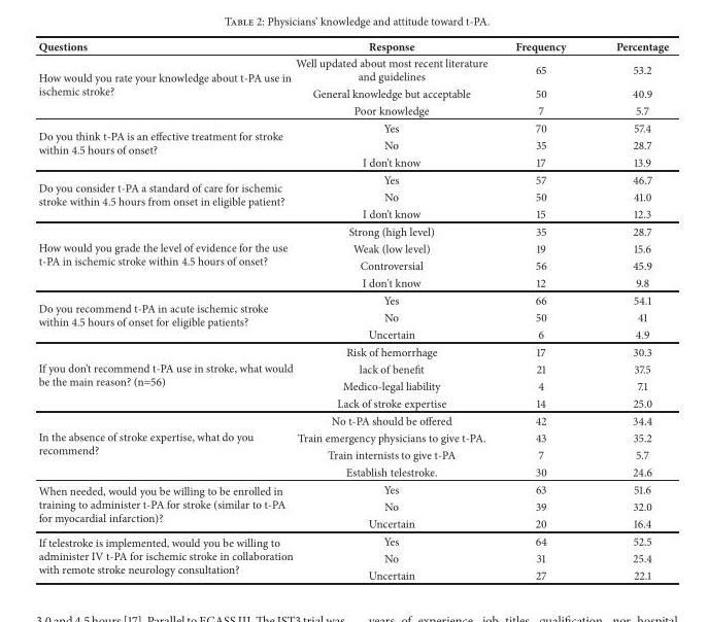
<table><thead><tr><td>Questions</td><td>Response</td><td>Frequency</td><td>Percentage</td></tr></thead><tbody><tr><td rowspan="3">How would you rate your knowledge about t-PA use in ischemic stroke?</td><td>Well updated about most recent literature and guidelines</td><td>65</td><td>53.2</td></tr><tr><td>General knowledge but acceptable</td><td>50</td><td>40.9</td></tr><tr><td>Poor knowledge</td><td>7</td><td>5.7</td></tr><tr><td rowspan="3">Do you think t-PA is an effective treatment for stroke within 4.5 hours of onset?</td><td>Yes</td><td>70</td><td>57.4</td></tr><tr><td>No</td><td>35</td><td>28.7</td></tr><tr><td>I don’t know</td><td>17</td><td>13.9</td></tr><tr><td rowspan="3">Do you consider t-PA a standard of care for ischemic stroke within 4.5 hours from onset in eligible patient?</td><td>Yes</td><td>57</td><td>46.7</td></tr><tr><td>No</td><td>50</td><td>41.0</td></tr><tr><td>I don’t know</td><td>15</td><td>12.3</td></tr><tr><td rowspan="4">How would you grade the level of evidence for the use t-PA in ischemic stroke within 4.5 hours of onset?</td><td>Strong (high level)</td><td>35</td><td>28.7</td></tr><tr><td>Weak (low level)</td><td>19</td><td>15.6</td></tr><tr><td>Controversial</td><td>56</td><td>45.9</td></tr><tr><td>I don&#x27;t know</td><td>12</td><td>9.8</td></tr><tr><td rowspan="3">Do you recommend t-PA in acute ischemic stroke within 4.5 hours of onset for eligible patients?</td><td>Yes</td><td>66</td><td>54.1</td></tr><tr><td>No</td><td>50</td><td>41</td></tr><tr><td>Uncertain</td><td>6</td><td>4.9</td></tr><tr><td rowspan="4">If you don’t recommend t-PA use in stroke, what would be the main reason? (n=56)</td><td>Risk of hemorrhage</td><td>17</td><td>30.3</td></tr><tr><td>lack of benefit</td><td>21</td><td>37.5</td></tr><tr><td>Medico-legal liability</td><td>4</td><td>7.1</td></tr><tr><td>Lack of stroke expertise</td><td>14</td><td>25.0</td></tr><tr><td rowspan="4">In the absence of stroke expertise, what do you recommend?</td><td>No t-PA should be offered</td><td>42</td><td>34.4</td></tr><tr><td>Train emergency physicians to give t-PA.</td><td>43</td><td>35.2</td></tr><tr><td>Train internists to give t-PA</td><td>7</td><td>5.7</td></tr><tr><td>Establish telestroke.</td><td>30</td><td>24.6</td></tr><tr><td rowspan="3">When needed, would you be willing to be enrolled in training to administer t-PA for stroke (similar to t-PA for myocardial infarction)?</td><td>Yes</td><td>63</td><td>51.6</td></tr><tr><td>No</td><td>39</td><td>32.0</td></tr><tr><td>Uncertain</td><td>20</td><td>16.4</td></tr><tr><td rowspan="3">If telestroke is implemented, would you be willing to administer IV t-PA for ischemic stroke in collaboration with remote stroke neurology consultation?</td><td>Yes</td><td>64</td><td>52.5</td></tr><tr><td>No</td><td>31</td><td>25.4</td></tr><tr><td>Uncertain</td><td>27</td><td>22.1</td></tr></tbody></table>